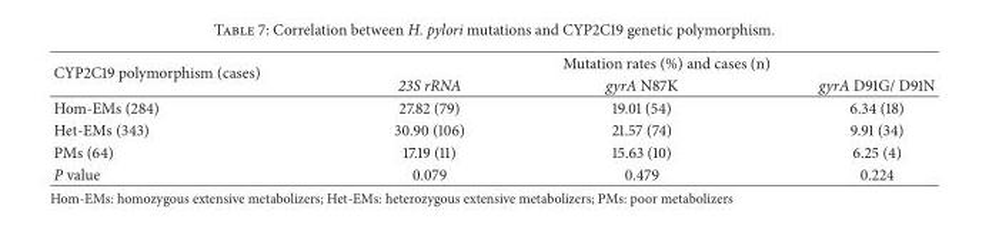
<table><thead><tr><td rowspan="2">CYP2C19 polymorphism (cases)</td><td colspan="3">Mutation rates (%) and cases (n)</td></tr><tr><td>23S rRNA</td><td>gyrA N87K</td><td>gyrA D91G/ D91N</td></tr></thead><tbody><tr><td>Hom-EMs (284)</td><td>27.82 (79)</td><td>19.01 (54)</td><td>6.34 (18)</td></tr><tr><td>Het-EMs (343)</td><td>30.90 (106)</td><td>21.57 (74)</td><td>9.91 (34)</td></tr><tr><td>PMs (64)</td><td>17.19 (11)</td><td>15.63 (10)</td><td>6.25 (4)</td></tr><tr><td>P value</td><td>0.079</td><td>0.479</td><td>0.224</td></tr></tbody></table>